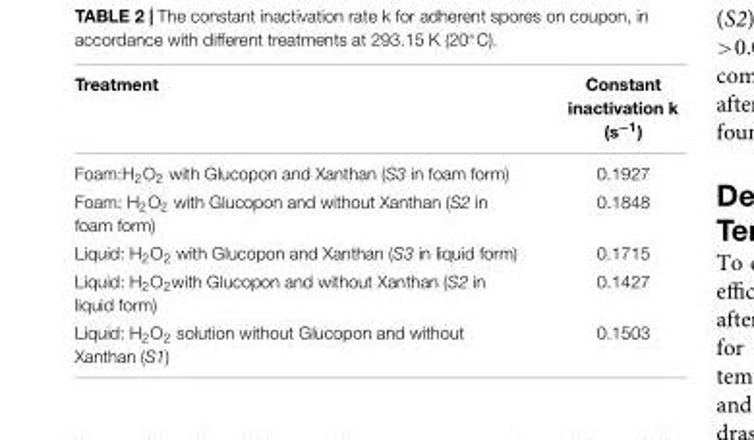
<table><thead><tr><td>Treatment</td><td>Constant inactivation k (s<sup>−1</sup>)</td></tr></thead><tbody><tr><td>Foam:H<sub>2</sub>O<sub>2</sub> with Glucopon and Xanthan (S3 in foam form)</td><td>0.1927</td></tr><tr><td>Foam: H<sub>2</sub>O<sub>2</sub> with Glucopon and without Xanthan (S2 in foam form)</td><td>0.1848</td></tr><tr><td>Liquid: H<sub>2</sub>O<sub>2</sub> with Glucopon and Xanthan (S3 in liquid form)</td><td>0.1715</td></tr><tr><td>Liquid: H<sub>2</sub>O<sub>2</sub>with Glucopon and without Xanthan (S2 in liquid form)</td><td>0.1427</td></tr><tr><td>Liquid: H<sub>2</sub>O<sub>2</sub> solution without Glucopon and without Xanthan (S1)</td><td>0.1503</td></tr></tbody></table>